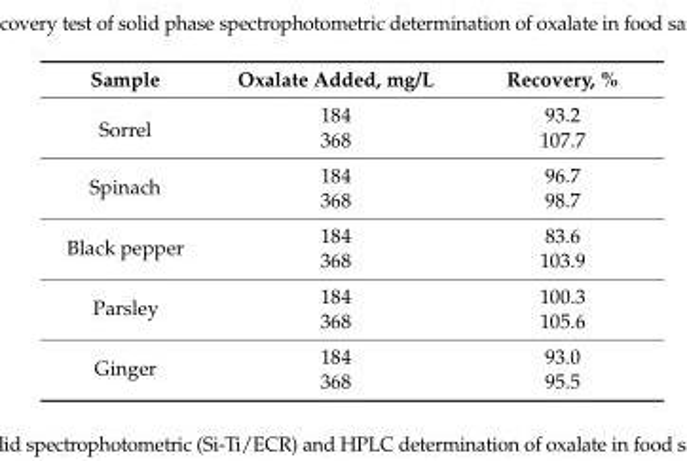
<table><thead><tr><td>Sample</td><td>Oxalate Added, mg/L</td><td>Recovery, %</td></tr></thead><tbody><tr><td rowspan="2">Sorrel</td><td>184</td><td>93.2</td></tr><tr><td>368</td><td>107.7</td></tr><tr><td rowspan="2">Spinach</td><td>184</td><td>96.7</td></tr><tr><td>368</td><td>98.7</td></tr><tr><td rowspan="2">Black pepper</td><td>184</td><td>83.6</td></tr><tr><td>368</td><td>103.9</td></tr><tr><td rowspan="2">Parsley</td><td>184</td><td>100.3</td></tr><tr><td>368</td><td>105.6</td></tr><tr><td rowspan="2">Ginger</td><td>184</td><td>93.0</td></tr><tr><td>368</td><td>95.5</td></tr></tbody></table>